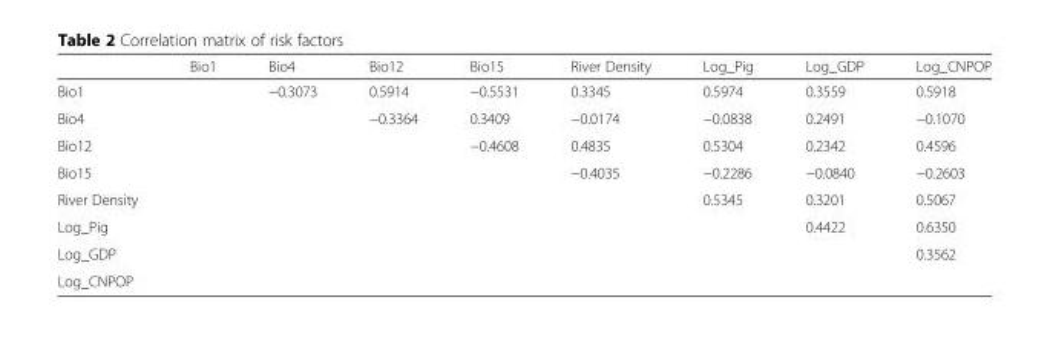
<table><thead><tr><td></td><td>Bio1</td><td>Bio4</td><td>Bio12</td><td>Bio15</td><td>River Density</td><td>Log_Pig</td><td>Log_GDP</td><td>Log_CNPOP</td></tr></thead><tbody><tr><td>Bio1</td><td></td><td>−0.3073</td><td>0.5914</td><td>−0.5531</td><td>0.3345</td><td>0.5974</td><td>0.3559</td><td>0.5918</td></tr><tr><td>Bio4</td><td></td><td></td><td>−0.3364</td><td>0.3409</td><td>−0.0174</td><td>−0.0838</td><td>0.2491</td><td>−0.1070</td></tr><tr><td>Bio12</td><td></td><td></td><td></td><td>−0.4608</td><td>0.4835</td><td>0.5304</td><td>0.2342</td><td>0.4596</td></tr><tr><td>Bio15</td><td></td><td></td><td></td><td></td><td>−0.4035</td><td>−0.2286</td><td>−0.0840</td><td>−0.2603</td></tr><tr><td>River Density</td><td></td><td></td><td></td><td></td><td></td><td>0.5345</td><td>0.3201</td><td>0.5067</td></tr><tr><td>Log_Pig</td><td></td><td></td><td></td><td></td><td></td><td></td><td>0.4422</td><td>0.6350</td></tr><tr><td>Log_GDP</td><td></td><td></td><td></td><td></td><td></td><td></td><td></td><td>0.3562</td></tr><tr><td>Log_CNPOP</td><td></td><td></td><td></td><td></td><td></td><td></td><td></td><td></td></tr></tbody></table>